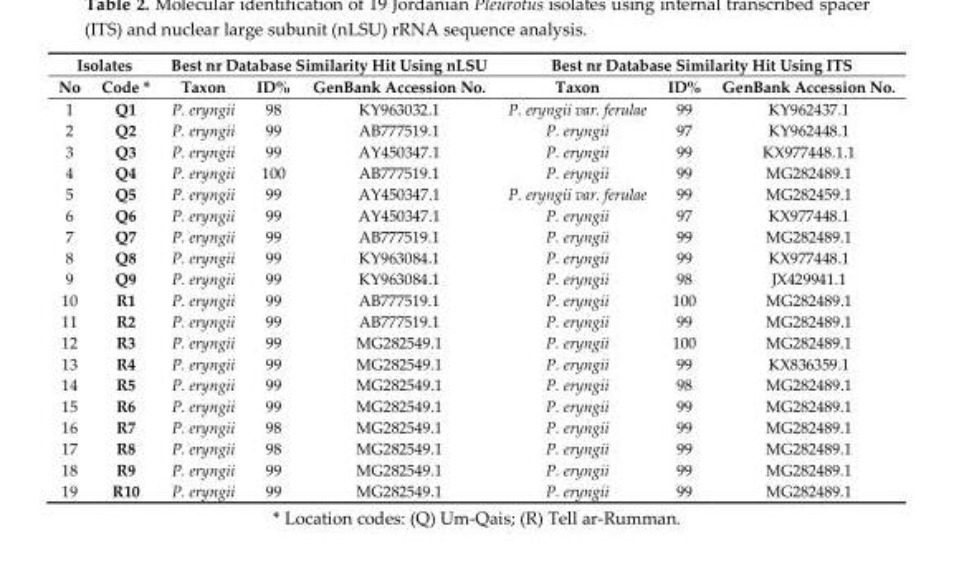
<table><thead><tr><td colspan="2">Isolates</td><td colspan="3">Best nr Database Similarity Hit Using nLSU</td><td colspan="3">Best nr Database Similarity Hit Using ITS</td></tr><tr><td>No</td><td>Code *</td><td>Taxon</td><td>ID%</td><td>GenBank Accession No.</td><td>Taxon</td><td>ID%</td><td>GenBank Accession No.</td></tr></thead><tbody><tr><td>1</td><td>Q1</td><td>P. eryngii</td><td>98</td><td>KY963032.1</td><td>P. eryngii var. ferulae</td><td>99</td><td>KY962437.1</td></tr><tr><td>2</td><td>Q2</td><td>P. eryngii</td><td>99</td><td>AB777519.1</td><td>P. eryngii</td><td>97</td><td>KY962448.1</td></tr><tr><td>3</td><td>Q3</td><td>P. eryngii</td><td>99</td><td>AY450347.1</td><td>P. eryngii</td><td>99</td><td>KX977448.1.1</td></tr><tr><td>4</td><td>Q4</td><td>P. eryngii</td><td>100</td><td>AB777519.1</td><td>P. eryngii</td><td>99</td><td>MG282489.1</td></tr><tr><td>5</td><td>Q5</td><td>P. eryngii</td><td>99</td><td>AY450347.1</td><td>P. eryngii var. ferulae</td><td>99</td><td>MG282459.1</td></tr><tr><td>6</td><td>Q6</td><td>P. eryngii</td><td>99</td><td>AY450347.1</td><td>P. eryngii</td><td>97</td><td>KX977448.1</td></tr><tr><td>7</td><td>Q7</td><td>P. eryngii</td><td>99</td><td>AB777519.1</td><td>P. eryngii</td><td>99</td><td>MG282489.1</td></tr><tr><td>8</td><td>Q8</td><td>P. eryngii</td><td>99</td><td>KY963084.1</td><td>P. eryngii</td><td>99</td><td>KX977448.1</td></tr><tr><td>9</td><td>Q9</td><td>P. eryngii</td><td>99</td><td>KY963084.1</td><td>P. eryngii</td><td>98</td><td>JX429941.1</td></tr><tr><td>10</td><td>R1</td><td>P. eryngii</td><td>99</td><td>AB777519.1</td><td>P. eryngii</td><td>100</td><td>MG282489.1</td></tr><tr><td>11</td><td>R2</td><td>P. eryngii</td><td>99</td><td>AB777519.1</td><td>P. eryngii</td><td>99</td><td>MG282489.1</td></tr><tr><td>12</td><td>R3</td><td>P. eryngii</td><td>99</td><td>MG282549.1</td><td>P. eryngii</td><td>100</td><td>MG282489.1</td></tr><tr><td>13</td><td>R4</td><td>P. eryngii</td><td>99</td><td>MG282549.1</td><td>P. eryngii</td><td>99</td><td>KX836359.1</td></tr><tr><td>14</td><td>R5</td><td>P. eryngii</td><td>99</td><td>MG282549.1</td><td>P. eryngii</td><td>98</td><td>MG282489.1</td></tr><tr><td>15</td><td>R6</td><td>P. eryngii</td><td>99</td><td>MG282549.1</td><td>P. eryngii</td><td>99</td><td>MG282489.1</td></tr><tr><td>16</td><td>R7</td><td>P. eryngii</td><td>98</td><td>MG282549.1</td><td>P. eryngii</td><td>99</td><td>MG282489.1</td></tr><tr><td>17</td><td>R8</td><td>P. eryngii</td><td>98</td><td>MG282549.1</td><td>P. eryngii</td><td>99</td><td>MG282489.1</td></tr><tr><td>18</td><td>R9</td><td>P. eryngii</td><td>99</td><td>MG282549.1</td><td>P. eryngii</td><td>99</td><td>MG282489.1</td></tr><tr><td>19</td><td>R10</td><td>P. eryngii</td><td>99</td><td>MG282549.1</td><td>P. eryngii</td><td>99</td><td>MG282489.1</td></tr></tbody></table>